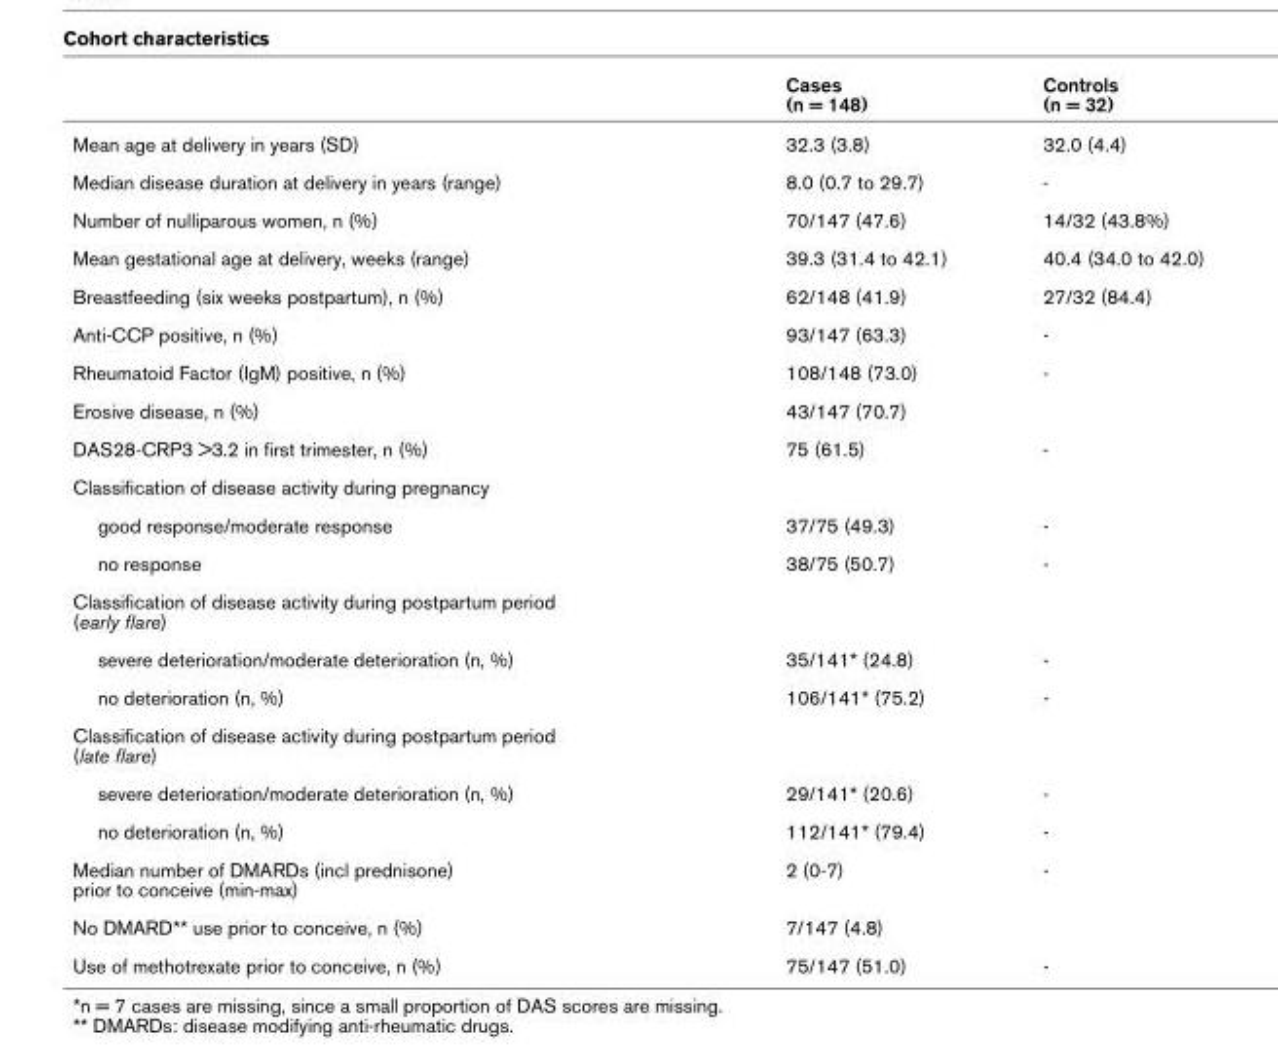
<table><thead><tr><td></td><td>Cases (n = 148)</td><td>Controls (n = 32)</td></tr></thead><tbody><tr><td>Mean age at delivery in years (SD)</td><td>32.3 (3.8)</td><td>32.0 (4.4)</td></tr><tr><td>Median disease duration at delivery in years (range)</td><td>8.0 (0.7 to 29.7)</td><td>-</td></tr><tr><td>Number of nulliparous women, n (%)</td><td>70/147 (47.6)</td><td>14/32 (43.8%)</td></tr><tr><td>Mean gestational age at delivery, weeks (range)</td><td>39.3 (31.4 to 42.1)</td><td>40.4 (34.0 to 42.0)</td></tr><tr><td>Breastfeeding (six weeks postpartum), n (%)</td><td>62/148 (41.9)</td><td>27/32 (84.4)</td></tr><tr><td>Anti-CCP positive, n (%)</td><td>93/147 (63.3)</td><td>-</td></tr><tr><td>Rheumatoid Factor (IgM) positive, n (%)</td><td>108/148 (73.0)</td><td>-</td></tr><tr><td>Erosive disease, n (%)</td><td>43/147 (70.7)</td><td></td></tr><tr><td>DAS28-CRP3 &gt;3.2 in first trimester, n (%)</td><td>75 (61.5)</td><td>-</td></tr><tr><td colspan="3">Classification of disease activity during pregnancy</td></tr><tr><td>good response/moderate response</td><td>37/75 (49.3)</td><td>-</td></tr><tr><td>no response</td><td>38/75 (50.7)</td><td>-</td></tr><tr><td colspan="3">Classification of disease activity during postpartum period (early flare)</td></tr><tr><td>severe deterioration/moderate deterioration (n, %)</td><td>35/141* (24.8)</td><td>-</td></tr><tr><td>no deterioration (n, %)</td><td>106/141* (75.2)</td><td>-</td></tr><tr><td colspan="3">Classification of disease activity during postpartum period (late flare)</td></tr><tr><td>severe deterioration/moderate deterioration (n, %)</td><td>29/141* (20.6)</td><td>-</td></tr><tr><td>no deterioration (n, %)</td><td>112/141* (79.4)</td><td>-</td></tr><tr><td>Median number of DMARDs (incl prednisone) prior to conceive (min-max)</td><td>2 (0-7)</td><td>-</td></tr><tr><td>No DMARD** use prior to conceive, n (%)</td><td>7/147 (4.8)</td><td></td></tr><tr><td>Use of methotrexate prior to conceive, n (%)</td><td>75/147 (51.0)</td><td>-</td></tr></tbody></table>